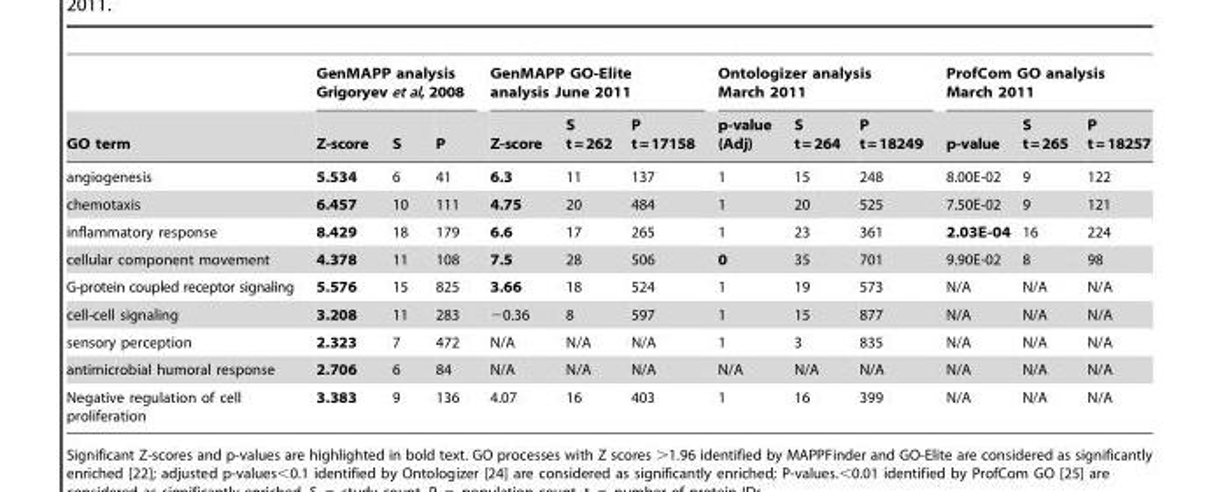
<table><thead><tr><td rowspan="2">GO term</td><td colspan="3">GenMAPP analysis Grigoryev et al, 2008</td><td colspan="3">GenMAPP GO-Elite analysis June 2011</td><td colspan="3">Ontologizer analysis March 2011</td><td colspan="3">ProfCom GO analysis March 2011</td></tr><tr><td>Z-score</td><td>S</td><td>P</td><td>Z-score</td><td>S t=262</td><td>P t=17158</td><td>p-value (Adj)</td><td>S t=264</td><td>P t=18249</td><td>p-value</td><td>S t=265</td><td>P t=18257</td></tr></thead><tbody><tr><td>angiogenesis</td><td>5.534</td><td>6</td><td>41</td><td>6.3</td><td>11</td><td>137</td><td>1</td><td>15</td><td>248</td><td>8.00E-02</td><td>9</td><td>122</td></tr><tr><td>chemotaxis</td><td>6.457</td><td>10</td><td>111</td><td>4.75</td><td>20</td><td>484</td><td>1</td><td>20</td><td>525</td><td>7.50E-02</td><td>9</td><td>121</td></tr><tr><td>inflammatory response</td><td>8.429</td><td>18</td><td>179</td><td>6.6</td><td>17</td><td>265</td><td>1</td><td>23</td><td>361</td><td>2.03E-04</td><td>16</td><td>224</td></tr><tr><td>cellular component movement</td><td>4.378</td><td>11</td><td>108</td><td>7.5</td><td>28</td><td>506</td><td>0</td><td>35</td><td>701</td><td>9.90E-02</td><td>8</td><td>98</td></tr><tr><td>G-protein coupled receptor signaling</td><td>5.576</td><td>15</td><td>825</td><td>3.66</td><td>18</td><td>524</td><td>1</td><td>19</td><td>573</td><td>N/A</td><td>N/A</td><td>N/A</td></tr><tr><td>cell-cell signaling</td><td>3.208</td><td>11</td><td>283</td><td>−0.36</td><td>8</td><td>597</td><td>1</td><td>15</td><td>877</td><td>N/A</td><td>N/A</td><td>N/A</td></tr><tr><td>sensory perception</td><td>2.323</td><td>7</td><td>472</td><td>N/A</td><td>N/A</td><td>N/A</td><td>1</td><td>3</td><td>835</td><td>N/A</td><td>N/A</td><td>N/A</td></tr><tr><td>antimicrobial humoral response</td><td>2.706</td><td>6</td><td>84</td><td>N/A</td><td>N/A</td><td>N/A</td><td>N/A</td><td>N/A</td><td>N/A</td><td>N/A</td><td>N/A</td><td>N/A</td></tr><tr><td>Negative regulation of cell proliferation</td><td>3.383</td><td>9</td><td>136</td><td>4.07</td><td>16</td><td>403</td><td>1</td><td>16</td><td>399</td><td>N/A</td><td>N/A</td><td>N/A</td></tr></tbody></table>